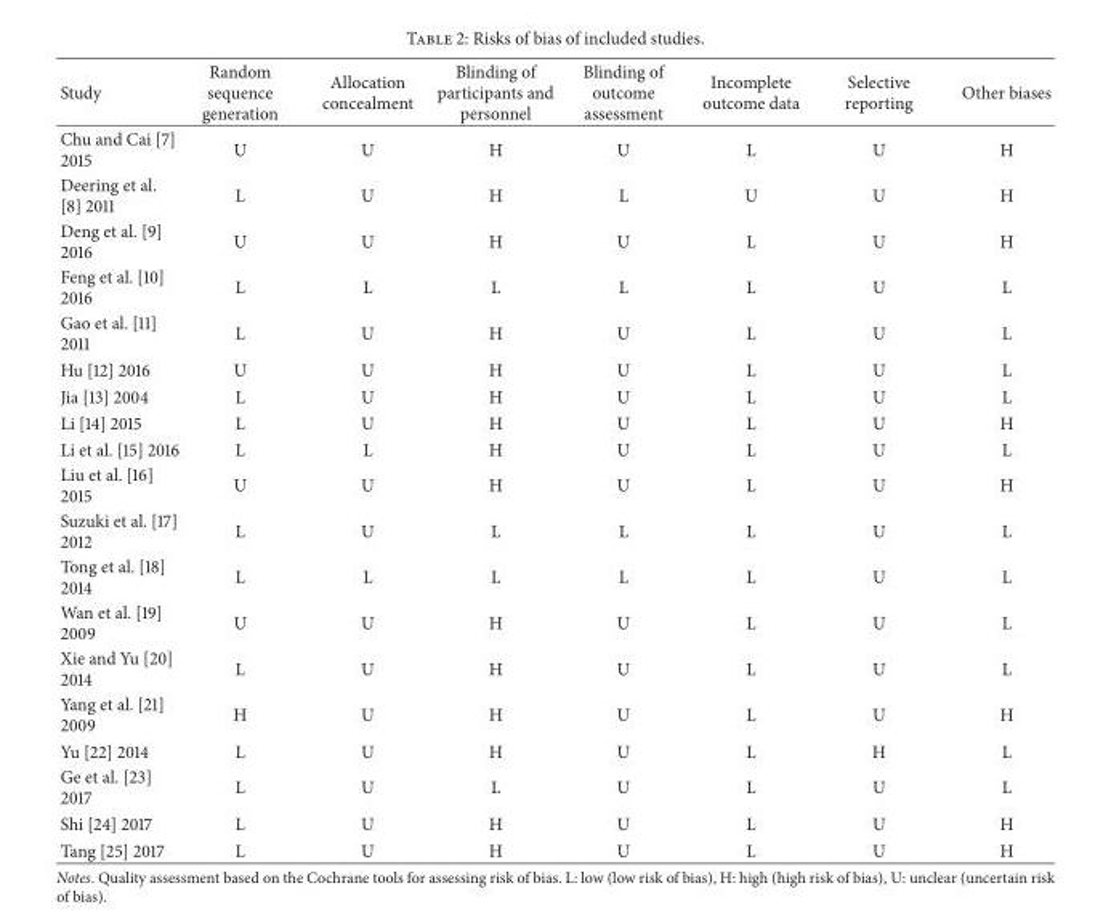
<table><thead><tr><td>Study</td><td>Random sequence generation</td><td>Allocation concealment</td><td>Blinding of participants and personnel</td><td>Blinding of outcome assessment</td><td>Incomplete outcome data</td><td>Selective reporting</td><td>Other biases</td></tr></thead><tbody><tr><td>Chu and Cai [7] 2015</td><td>U</td><td>U</td><td>H</td><td>U</td><td>L</td><td>U</td><td>H</td></tr><tr><td>Deering et al. [8] 2011</td><td>L</td><td>U</td><td>H</td><td>L</td><td>U</td><td>U</td><td>H</td></tr><tr><td>Deng et al. [9] 2016</td><td>U</td><td>U</td><td>H</td><td>U</td><td>L</td><td>U</td><td>H</td></tr><tr><td>Feng et al. [10] 2016</td><td>L</td><td>L</td><td>L</td><td>L</td><td>L</td><td>U</td><td>L</td></tr><tr><td>Gao et al. [11] 2011</td><td>L</td><td>U</td><td>H</td><td>U</td><td>L</td><td>U</td><td>L</td></tr><tr><td>Hu [12] 2016</td><td>U</td><td>U</td><td>H</td><td>U</td><td>L</td><td>U</td><td>L</td></tr><tr><td>Jia [13] 2004</td><td>L</td><td>U</td><td>H</td><td>U</td><td>L</td><td>U</td><td>L</td></tr><tr><td>Li [14] 2015</td><td>L</td><td>U</td><td>H</td><td>U</td><td>L</td><td>U</td><td>H</td></tr><tr><td>Li et al. [15] 2016</td><td>L</td><td>L</td><td>H</td><td>U</td><td>L</td><td>U</td><td>L</td></tr><tr><td>Liu et al. [16] 2015</td><td>U</td><td>U</td><td>H</td><td>U</td><td>L</td><td>U</td><td>H</td></tr><tr><td>Suzuki et al. [17] 2012</td><td>L</td><td>U</td><td>L</td><td>L</td><td>L</td><td>U</td><td>L</td></tr><tr><td>Tong et al. [18] 2014</td><td>L</td><td>L</td><td>L</td><td>L</td><td>L</td><td>U</td><td>L</td></tr><tr><td>Wan et al. [19] 2009</td><td>U</td><td>U</td><td>H</td><td>U</td><td>L</td><td>U</td><td>L</td></tr><tr><td>Xie and Yu [20] 2014</td><td>L</td><td>U</td><td>H</td><td>U</td><td>L</td><td>U</td><td>L</td></tr><tr><td>Yang et al. [21] 2009</td><td>H</td><td>U</td><td>H</td><td>U</td><td>L</td><td>U</td><td>H</td></tr><tr><td>Yu [22] 2014</td><td>L</td><td>U</td><td>H</td><td>U</td><td>L</td><td>H</td><td>L</td></tr><tr><td>Ge et al. [23] 2017</td><td>L</td><td>U</td><td>L</td><td>U</td><td>L</td><td>U</td><td>L</td></tr><tr><td>Shi [24] 2017</td><td>L</td><td>U</td><td>H</td><td>U</td><td>L</td><td>U</td><td>H</td></tr><tr><td>Tang [25] 2017</td><td>L</td><td>U</td><td>H</td><td>U</td><td>L</td><td>U</td><td>H</td></tr></tbody></table>